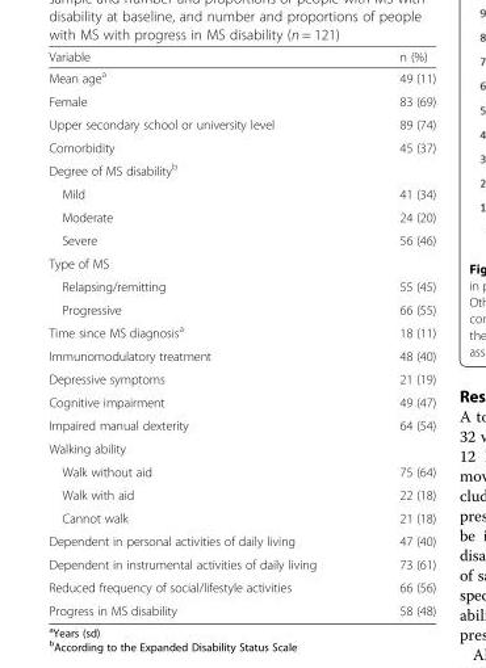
<table><thead><tr><td>Variable</td><td>n (%)</td></tr></thead><tbody><tr><td>Mean age<sup>a</sup></td><td>49 (11)</td></tr><tr><td>Female</td><td>83 (69)</td></tr><tr><td>Upper secondary school or university level</td><td>89 (74)</td></tr><tr><td>Comorbidity</td><td>45 (37)</td></tr><tr><td colspan="2">Degree of MS disability<sup>b</sup></td></tr><tr><td>Mild</td><td>41 (34)</td></tr><tr><td>Moderate</td><td>24 (20)</td></tr><tr><td>Severe</td><td>56 (46)</td></tr><tr><td colspan="2">Type of MS</td></tr><tr><td>Relapsing/remitting</td><td>55 (45)</td></tr><tr><td>Progressive</td><td>66 (55)</td></tr><tr><td>Time since MS diagnosis<sup>a</sup></td><td>18 (11)</td></tr><tr><td>Immunomodulatory treatment</td><td>48 (40)</td></tr><tr><td>Depressive symptoms</td><td>21 (19)</td></tr><tr><td>Cognitive impairment</td><td>49 (47)</td></tr><tr><td>Impaired manual dexterity</td><td>64 (54)</td></tr><tr><td colspan="2">Walking ability</td></tr><tr><td>Walk without aid</td><td>75 (64)</td></tr><tr><td>Walk with aid</td><td>22 (18)</td></tr><tr><td>Cannot walk</td><td>21 (18)</td></tr><tr><td>Dependent in personal activities of daily living</td><td>47 (40)</td></tr><tr><td>Dependent in instrumental activities of daily living</td><td>73 (61)</td></tr><tr><td>Reduced frequency of social/lifestyle activities</td><td>66 (56)</td></tr><tr><td>Progress in MS disability</td><td>58 (48)</td></tr></tbody></table>